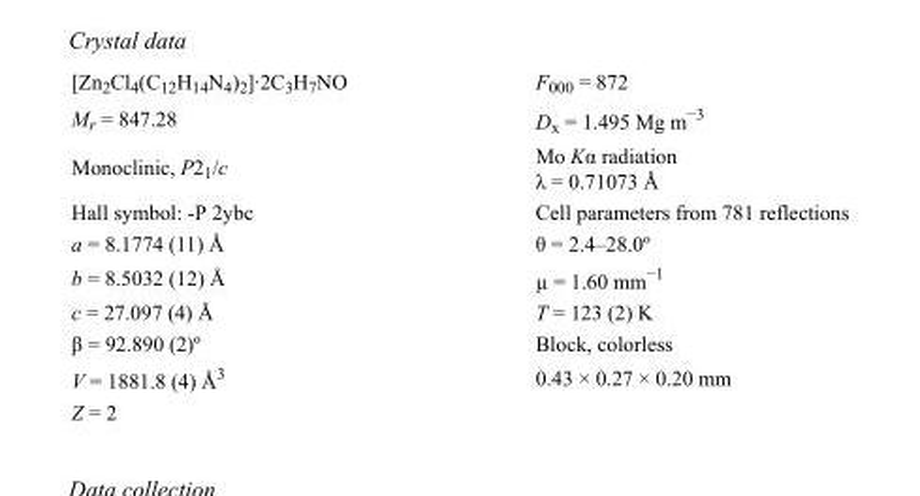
<table><tbody><tr><td>[Zn<sub>2</sub>Cl<sub>4</sub>(C<sub>12</sub>H<sub>14</sub>N<sub>4</sub>)<sub>2</sub>]·2C<sub>3</sub>H<sub>7</sub>NO</td><td>F000 = 872</td></tr><tr><td>M<sub>r</sub> = 847.28</td><td>D<sub>x</sub> = 1.495 Mg m<sup>−3</sup></td></tr><tr><td>Monoclinic, P2<sub>1</sub>/c</td><td>Mo Kα radiation λ = 0.71073 Å</td></tr><tr><td>Hall symbol: -P 2ybc</td><td>Cell parameters from 781 reflections</td></tr><tr><td>a = 8.1774 (11) Å</td><td>θ = 2.4–28.0º</td></tr><tr><td>b = 8.5032 (12) Å</td><td>µ = 1.60 mm<sup>−1</sup></td></tr><tr><td>c = 27.097 (4) Å</td><td>T = 123 (2) K</td></tr><tr><td>β = 92.890 (2)º</td><td>Block, colorless</td></tr><tr><td>V = 1881.8 (4) Å<sup>3</sup></td><td>0.43 × 0.27 × 0.20 mm</td></tr><tr><td>Z = 2</td><td></td></tr></tbody></table>